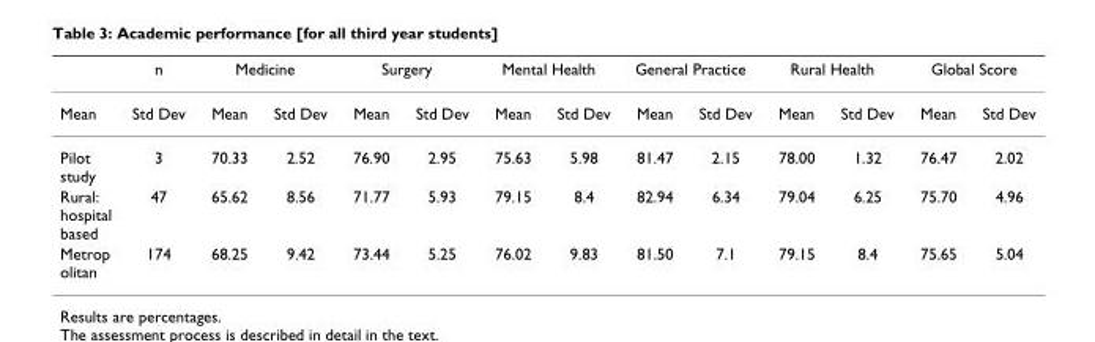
<table><thead><tr><td rowspan="2">Mean</td><td rowspan="2">n Std Dev</td><td colspan="2">Medicine</td><td colspan="2">Surgery</td><td colspan="2">Mental Health</td><td colspan="2">General Practice</td><td colspan="2">Rural Health</td><td colspan="2">Global Score</td></tr><tr><td>Mean</td><td>Std Dev</td><td>Mean</td><td>Std Dev</td><td>Mean</td><td>Std Dev</td><td>Mean</td><td>Std Dev</td><td>Mean</td><td>Std Dev</td><td>Mean</td><td>Std Dev</td></tr></thead><tbody><tr><td>Pilot study</td><td>3</td><td>70.33</td><td>2.52</td><td>76.90</td><td>2.95</td><td>75.63</td><td>5.98</td><td>81.47</td><td>2.15</td><td>78.00</td><td>1.32</td><td>76.47</td><td>2.02</td></tr><tr><td>Rural: hospital based</td><td>47</td><td>65.62</td><td>8.56</td><td>71.77</td><td>5.93</td><td>79.15</td><td>8.4</td><td>82.94</td><td>6.34</td><td>79.04</td><td>6.25</td><td>75.70</td><td>4.96</td></tr><tr><td>Metrop olitan</td><td>174</td><td>68.25</td><td>9.42</td><td>73.44</td><td>5.25</td><td>76.02</td><td>9.83</td><td>81.50</td><td>7.1</td><td>79.15</td><td>8.4</td><td>75.65</td><td>5.04</td></tr></tbody></table>